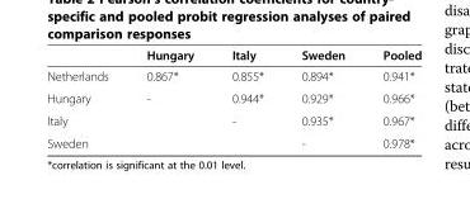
<table><thead><tr><td></td><td>Hungary</td><td>Italy</td><td>Sweden</td><td>Pooled</td></tr></thead><tbody><tr><td>Netherlands</td><td>0.867*</td><td>0.855*</td><td>0.894*</td><td>0.941*</td></tr><tr><td>Hungary</td><td>-</td><td>0.944*</td><td>0.929*</td><td>0.966*</td></tr><tr><td>Italy</td><td></td><td>-</td><td>0.935*</td><td>0.967*</td></tr><tr><td>Sweden</td><td></td><td></td><td>-</td><td>0.978*</td></tr></tbody></table>